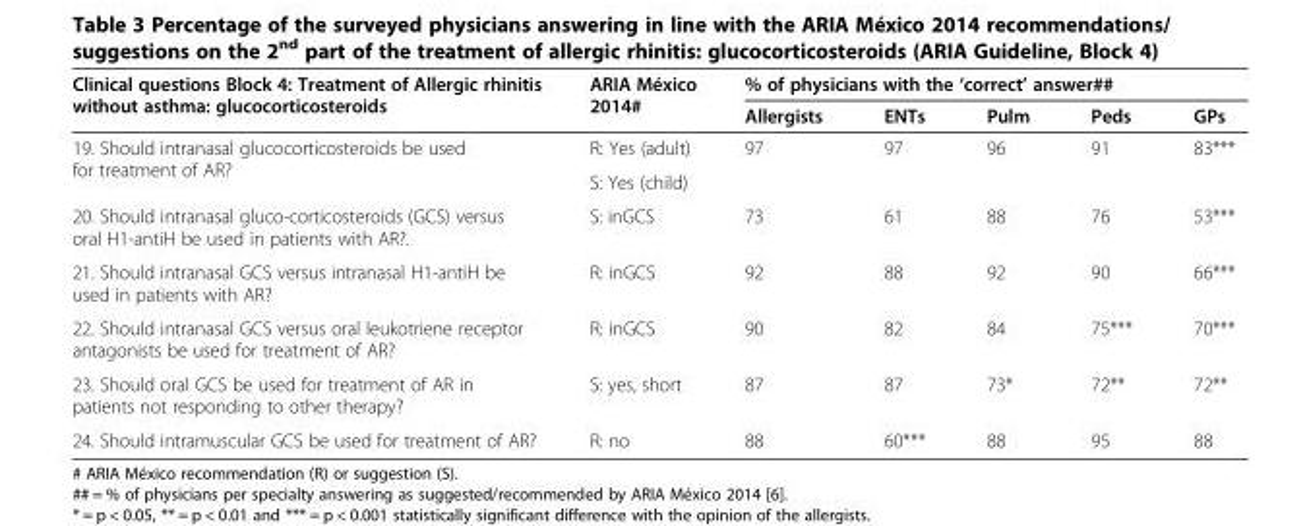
<table><thead><tr><td rowspan="2">Clinical questions Block 4: Treatment of Allergic rhinitis without asthma: glucocorticosteroids</td><td rowspan="2">ARIA México 2014#</td><td colspan="5">% of physicians with the ‘correct’ answer##</td></tr><tr><td>Allergists</td><td>ENTs</td><td>Pulm</td><td>Peds</td><td>GPs</td></tr></thead><tbody><tr><td rowspan="2">19. Should intranasal glucocorticosteroids be used for treatment of AR?</td><td>R: Yes (adult)</td><td rowspan="2">97</td><td rowspan="2">97</td><td rowspan="2">96</td><td rowspan="2">91</td><td rowspan="2">83***</td></tr><tr><td>S: Yes (child)</td></tr><tr><td>20. Should intranasal gluco-corticosteroids (GCS) versus oral H1-antiH be used in patients with AR?.</td><td>S: inGCS</td><td>73</td><td>61</td><td>88</td><td>76</td><td>53***</td></tr><tr><td>21. Should intranasal GCS versus intranasal H1-antiH be used in patients with AR?</td><td>R: inGCS</td><td>92</td><td>88</td><td>92</td><td>90</td><td>66***</td></tr><tr><td>22. Should intranasal GCS versus oral leukotriene receptor antagonists be used for treatment of AR?</td><td>R: inGCS</td><td>90</td><td>82</td><td>84</td><td>75***</td><td>70***</td></tr><tr><td>23. Should oral GCS be used for treatment of AR in patients not responding to other therapy?</td><td>S: yes, short</td><td>87</td><td>87</td><td>73*</td><td>72**</td><td>72**</td></tr><tr><td>24. Should intramuscular GCS be used for treatment of AR?</td><td>R: no</td><td>88</td><td>60***</td><td>88</td><td>95</td><td>88</td></tr></tbody></table>